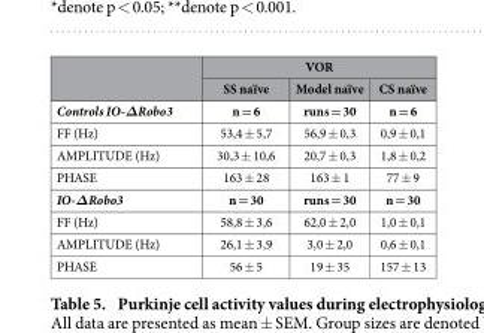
<table><thead><tr><td rowspan="2"></td><td colspan="3">VOR</td></tr><tr><td>SS naïve</td><td>Model naïve</td><td>CS naïve</td></tr></thead><tbody><tr><td>Controls IO-ΔRobo3</td><td>n = 6</td><td>runs = 30</td><td>n = 6</td></tr><tr><td>FF (Hz)</td><td>53,4 ± 5,7</td><td>56,9 ± 0,3</td><td>0,9 ± 0,1</td></tr><tr><td>AMPLITUDE (Hz)</td><td>30,3 ± 10,6</td><td>20,7 ± 0,3</td><td>1,8 ± 0,2</td></tr><tr><td>PHASE</td><td>163 ± 28</td><td>163 ± 1</td><td>77 ± 9</td></tr><tr><td>IO-ΔRobo3</td><td>n = 30</td><td>runs = 30</td><td>n = 30</td></tr><tr><td>FF (Hz)</td><td>58,8 ± 3,6</td><td>62,0 ± 2,0</td><td>1,0 ± 0,1</td></tr><tr><td>AMPLITUDE (Hz)</td><td>26,1 ± 3,9</td><td>3,0 ± 2,0</td><td>0,6 ± 0,1</td></tr><tr><td>PHASE</td><td>56 ± 5</td><td>19 ± 35</td><td>157 ± 13</td></tr></tbody></table>